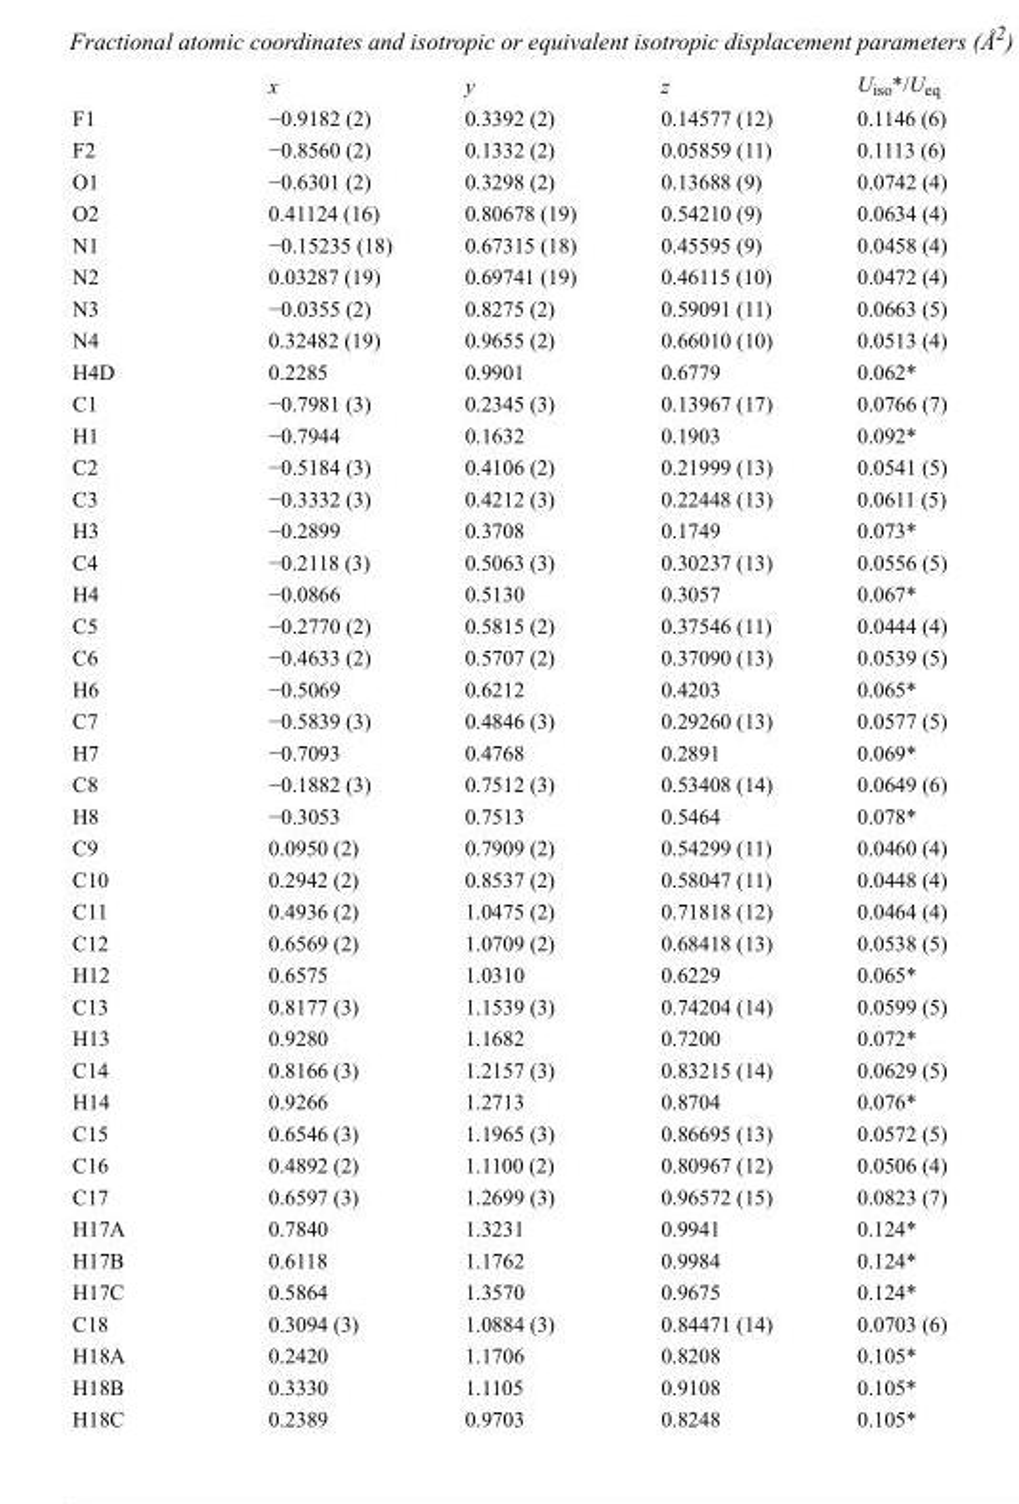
<table><thead><tr><td></td><td>x</td><td>y</td><td>z</td><td>U<sub>iso</sub>*/U<sub>eq</sub></td></tr></thead><tbody><tr><td>F1</td><td>−0.9182 (2)</td><td>0.3392 (2)</td><td>0.14577 (12)</td><td>0.1146 (6)</td></tr><tr><td>F2</td><td>−0.8560 (2)</td><td>0.1332 (2)</td><td>0.05859 (11)</td><td>0.1113 (6)</td></tr><tr><td>O1</td><td>−0.6301 (2)</td><td>0.3298 (2)</td><td>0.13688 (9)</td><td>0.0742 (4)</td></tr><tr><td>O2</td><td>0.41124 (16)</td><td>0.80678 (19)</td><td>0.54210 (9)</td><td>0.0634 (4)</td></tr><tr><td>N1</td><td>−0.15235 (18)</td><td>0.67315 (18)</td><td>0.45595 (9)</td><td>0.0458 (4)</td></tr><tr><td>N2</td><td>0.03287 (19)</td><td>0.69741 (19)</td><td>0.46115 (10)</td><td>0.0472 (4)</td></tr><tr><td>N3</td><td>−0.0355 (2)</td><td>0.8275 (2)</td><td>0.59091 (11)</td><td>0.0663 (5)</td></tr><tr><td>N4</td><td>0.32482 (19)</td><td>0.9655 (2)</td><td>0.66010 (10)</td><td>0.0513 (4)</td></tr><tr><td>H4D</td><td>0.2285</td><td>0.9901</td><td>0.6779</td><td>0.062*</td></tr><tr><td>C1</td><td>−0.7981 (3)</td><td>0.2345 (3)</td><td>0.13967 (17)</td><td>0.0766 (7)</td></tr><tr><td>H1</td><td>−0.7944</td><td>0.1632</td><td>0.1903</td><td>0.092*</td></tr><tr><td>C2</td><td>−0.5184 (3)</td><td>0.4106 (2)</td><td>0.21999 (13)</td><td>0.0541 (5)</td></tr><tr><td>C3</td><td>−0.3332 (3)</td><td>0.4212 (3)</td><td>0.22448 (13)</td><td>0.0611 (5)</td></tr><tr><td>H3</td><td>−0.2899</td><td>0.3708</td><td>0.1749</td><td>0.073*</td></tr><tr><td>C4</td><td>−0.2118 (3)</td><td>0.5063 (3)</td><td>0.30237 (13)</td><td>0.0556 (5)</td></tr><tr><td>H4</td><td>−0.0866</td><td>0.5130</td><td>0.3057</td><td>0.067*</td></tr><tr><td>C5</td><td>−0.2770 (2)</td><td>0.5815 (2)</td><td>0.37546 (11)</td><td>0.0444 (4)</td></tr><tr><td>C6</td><td>−0.4633 (2)</td><td>0.5707 (2)</td><td>0.37090 (13)</td><td>0.0539 (5)</td></tr><tr><td>H6</td><td>−0.5069</td><td>0.6212</td><td>0.4203</td><td>0.065*</td></tr><tr><td>C7</td><td>−0.5839 (3)</td><td>0.4846 (3)</td><td>0.29260 (13)</td><td>0.0577 (5)</td></tr><tr><td>H7</td><td>−0.7093</td><td>0.4768</td><td>0.2891</td><td>0.069*</td></tr><tr><td>C8</td><td>−0.1882 (3)</td><td>0.7512 (3)</td><td>0.53408 (14)</td><td>0.0649 (6)</td></tr><tr><td>H8</td><td>−0.3053</td><td>0.7513</td><td>0.5464</td><td>0.078*</td></tr><tr><td>C9</td><td>0.0950 (2)</td><td>0.7909 (2)</td><td>0.54299 (11)</td><td>0.0460 (4)</td></tr><tr><td>C10</td><td>0.2942 (2)</td><td>0.8537 (2)</td><td>0.58047 (11)</td><td>0.0448 (4)</td></tr><tr><td>C11</td><td>0.4936 (2)</td><td>1.0475 (2)</td><td>0.71818 (12)</td><td>0.0464 (4)</td></tr><tr><td>C12</td><td>0.6569 (2)</td><td>1.0709 (2)</td><td>0.68418 (13)</td><td>0.0538 (5)</td></tr><tr><td>H12</td><td>0.6575</td><td>1.0310</td><td>0.6229</td><td>0.065*</td></tr><tr><td>C13</td><td>0.8177 (3)</td><td>1.1539 (3)</td><td>0.74204 (14)</td><td>0.0599 (5)</td></tr><tr><td>H13</td><td>0.9280</td><td>1.1682</td><td>0.7200</td><td>0.072*</td></tr><tr><td>C14</td><td>0.8166 (3)</td><td>1.2157 (3)</td><td>0.83215 (14)</td><td>0.0629 (5)</td></tr><tr><td>H14</td><td>0.9266</td><td>1.2713</td><td>0.8704</td><td>0.076*</td></tr><tr><td>C15</td><td>0.6546 (3)</td><td>1.1965 (3)</td><td>0.86695 (13)</td><td>0.0572 (5)</td></tr><tr><td>C16</td><td>0.4892 (2)</td><td>1.1100 (2)</td><td>0.80967 (12)</td><td>0.0506 (4)</td></tr><tr><td>C17</td><td>0.6597 (3)</td><td>1.2699 (3)</td><td>0.96572 (15)</td><td>0.0823 (7)</td></tr><tr><td>H17A</td><td>0.7840</td><td>1.3231</td><td>0.9941</td><td>0.124*</td></tr><tr><td>H17B</td><td>0.6118</td><td>1.1762</td><td>0.9984</td><td>0.124*</td></tr><tr><td>H17C</td><td>0.5864</td><td>1.3570</td><td>0.9675</td><td>0.124*</td></tr><tr><td>C18</td><td>0.3094 (3)</td><td>1.0884 (3)</td><td>0.84471 (14)</td><td>0.0703 (6)</td></tr><tr><td>H18A</td><td>0.2420</td><td>1.1706</td><td>0.8208</td><td>0.105*</td></tr><tr><td>H18B</td><td>0.3330</td><td>1.1105</td><td>0.9108</td><td>0.105*</td></tr><tr><td>H18C</td><td>0.2389</td><td>0.9703</td><td>0.8248</td><td>0.105*</td></tr></tbody></table>